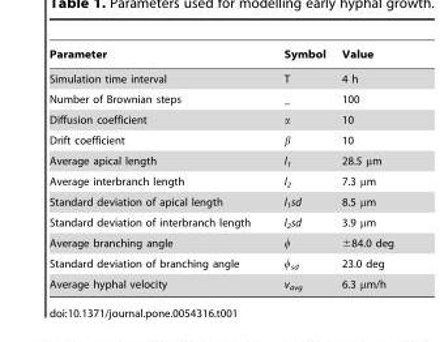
<table><thead><tr><td>Parameter</td><td>Symbol</td><td>Value</td></tr></thead><tbody><tr><td>Simulation time interval</td><td>T</td><td>4 h</td></tr><tr><td>Number of Brownian steps</td><td>_</td><td>100</td></tr><tr><td>Diffusion coefficient</td><td>α</td><td>10</td></tr><tr><td>Drift coefficient</td><td>β</td><td>10</td></tr><tr><td>Average apical length</td><td>l<sub>1</sub></td><td>28.5 μm</td></tr><tr><td>Average interbranch length</td><td>l<sub>2</sub></td><td>7.3 μm</td></tr><tr><td>Standard deviation of apical length</td><td>l<sub>1</sub>sd</td><td>8.5 μm</td></tr><tr><td>Standard deviation of interbranch length</td><td>l<sub>2</sub>sd</td><td>3.9 μm</td></tr><tr><td>Average branching angle</td><td>φ</td><td>±84.0 deg</td></tr><tr><td>Standard deviation of branching angle</td><td>φ<sub>sd</sub></td><td>23.0 deg</td></tr><tr><td>Average hyphal velocity</td><td>v<sub>avg</sub></td><td>6.3 μm/h</td></tr></tbody></table>